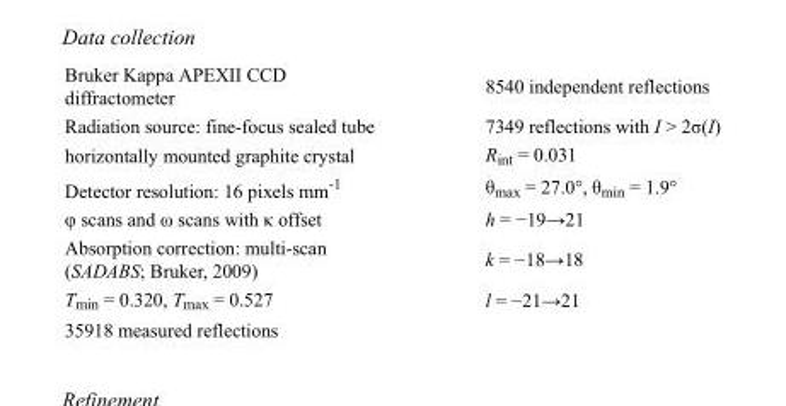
<table><tbody><tr><td>Bruker Kappa APEXII CCD diffractometer</td><td>8540 independent reflections</td></tr><tr><td>Radiation source: fine-focus sealed tube</td><td>7349 reflections with I &gt; 2σ(I)</td></tr><tr><td>horizontally mounted graphite crystal</td><td>R<sub>int</sub> = 0.031</td></tr><tr><td>Detector resolution: 16 pixels mm<sup>-1</sup></td><td>θ<sub>max</sub> = 27.0°, θ<sub>min</sub> = 1.9°</td></tr><tr><td>φ scans and ω scans with κ offset</td><td>h = −19→21</td></tr><tr><td>Absorption correction: multi-scan (SADABS; Bruker, 2009)</td><td>k = −18→18</td></tr><tr><td>T<sub>min</sub> = 0.320, T<sub>max</sub> = 0.527</td><td>l = −21→21</td></tr><tr><td>35918 measured reflections</td><td></td></tr></tbody></table>